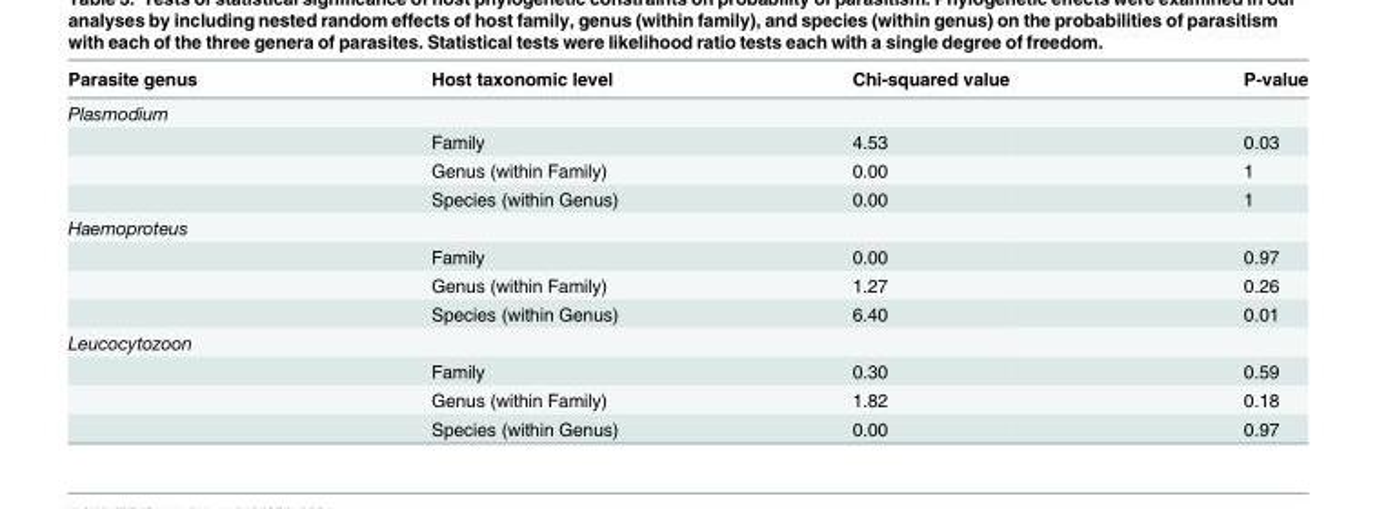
<table><thead><tr><td>Parasite genus</td><td>Host taxonomic level</td><td>Chi-squared value</td><td>P-value</td></tr></thead><tbody><tr><td colspan="4">Plasmodium</td></tr><tr><td></td><td>Family</td><td>4.53</td><td>0.03</td></tr><tr><td></td><td>Genus (within Family)</td><td>0.00</td><td>1</td></tr><tr><td></td><td>Species (within Genus)</td><td>0.00</td><td>1</td></tr><tr><td colspan="4">Haemoproteus</td></tr><tr><td></td><td>Family</td><td>0.00</td><td>0.97</td></tr><tr><td></td><td>Genus (within Family)</td><td>1.27</td><td>0.26</td></tr><tr><td></td><td>Species (within Genus)</td><td>6.40</td><td>0.01</td></tr><tr><td colspan="4">Leucocytozoon</td></tr><tr><td></td><td>Family</td><td>0.30</td><td>0.59</td></tr><tr><td></td><td>Genus (within Family)</td><td>1.82</td><td>0.18</td></tr><tr><td></td><td>Species (within Genus)</td><td>0.00</td><td>0.97</td></tr></tbody></table>